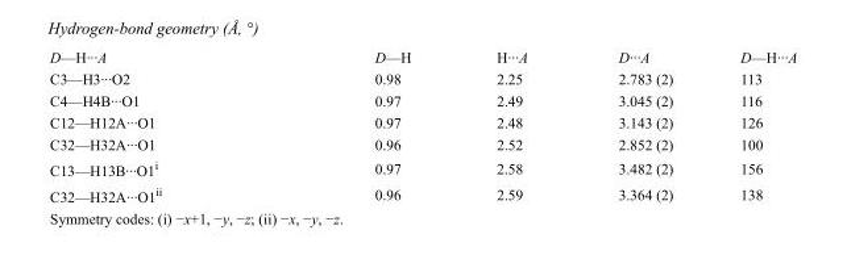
<table><tbody><tr><td>D—H···A</td><td>D—H</td><td>H···A</td><td>D···A</td><td>D—H···A</td></tr><tr><td>C3—H3···O2</td><td>0.98</td><td>2.25</td><td>2.783 (2)</td><td>113</td></tr><tr><td>C4—H4B···O1</td><td>0.97</td><td>2.49</td><td>3.045 (2)</td><td>116</td></tr><tr><td>C12—H12A···O1</td><td>0.97</td><td>2.48</td><td>3.143 (2)</td><td>126</td></tr><tr><td>C32—H32A···O1</td><td>0.96</td><td>2.52</td><td>2.852 (2)</td><td>100</td></tr><tr><td>C13—H13B···O1<sup>i</sup></td><td>0.97</td><td>2.58</td><td>3.482 (2)</td><td>156</td></tr><tr><td>C32—H32A···O1<sup>ii</sup></td><td>0.96</td><td>2.59</td><td>3.364 (2)</td><td>138</td></tr></tbody></table>